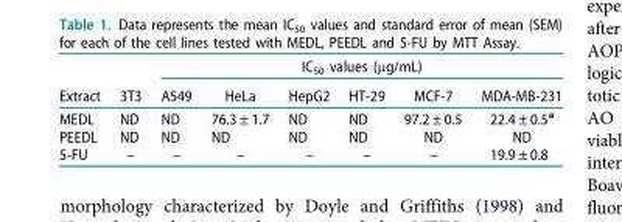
<table><thead><tr><td rowspan="2">Extract</td><td rowspan="2">3T3</td><td colspan="6">IC<sub>50</sub> values (µg/mL)</td></tr><tr><td>A549</td><td>HeLa</td><td>HepG2</td><td>HT-29</td><td>MCF-7</td><td>MDA-MB-231</td></tr></thead><tbody><tr><td>MEDL</td><td>ND</td><td>ND</td><td>76.3 ± 1.7</td><td>ND</td><td>ND</td><td>97.2 ± 0.5</td><td>22.4 ± 0.5<sup>a</sup></td></tr><tr><td>PEEDL</td><td>ND</td><td>ND</td><td>ND</td><td>ND</td><td>ND</td><td>ND</td><td>ND</td></tr><tr><td>5-FU</td><td>–</td><td>–</td><td>–</td><td>–</td><td>–</td><td>–</td><td>19.9 ± 0.8</td></tr></tbody></table>